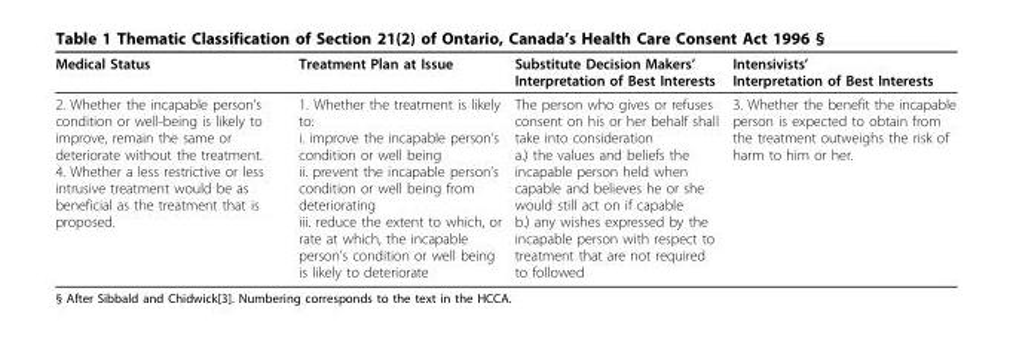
<table><thead><tr><td>Medical Status</td><td>Treatment Plan at Issue</td><td>Substitute Decision Makers’ Interpretation of Best Interests</td><td>Intensivists’ Interpretation of Best Interests</td></tr></thead><tbody><tr><td>2. Whether the incapable person’s condition or well-being is likely to improve, remain the same or deteriorate without the treatment. 4. Whether a less restrictive or less intrusive treatment would be as beneficial as the treatment that is proposed.</td><td>1. Whether the treatment is likely to: i. improve the incapable person’s condition or well being ii. prevent the incapable person’s condition or well being from deteriorating iii. reduce the extent to which, or rate at which, the incapable person’s condition or well being is likely to deteriorate</td><td>The person who gives or refuses consent on his or her behalf shall take into consideration a.) the values and beliefs the incapable person held when capable and believes he or she would still act on if capable b.) any wishes expressed by the incapable person with respect to treatment that are not required to followed</td><td>3. Whether the benefit the incapable person is expected to obtain from the treatment outweighs the risk of harm to him or her.</td></tr></tbody></table>